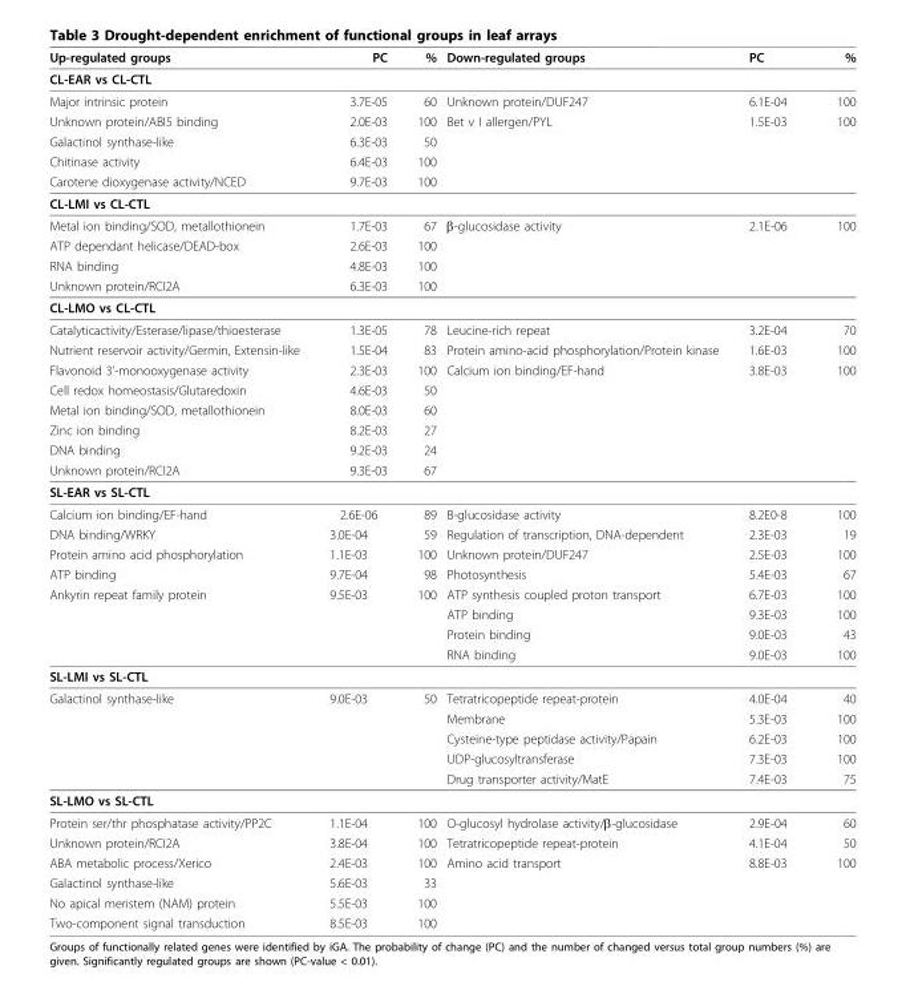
<table><thead><tr><td>Up-regulated groups</td><td>PC</td><td>%</td><td>Down-regulated groups</td><td>PC</td><td>%</td></tr></thead><tbody><tr><td colspan="6">CL-EAR vs CL-CTL</td></tr><tr><td>Major intrinsic protein</td><td>3.7E-05</td><td>60</td><td>Unknown protein/DUF247</td><td>6.1E-04</td><td>100</td></tr><tr><td>Unknown protein/ABI5 binding</td><td>2.0E-03</td><td>100</td><td>Bet v I allergen/PYL</td><td>1.5E-03</td><td>100</td></tr><tr><td>Galactinol synthase-like</td><td>6.3E-03</td><td>50</td><td></td><td></td><td></td></tr><tr><td>Chitinase activity</td><td>6.4E-03</td><td>100</td><td></td><td></td><td></td></tr><tr><td>Carotene dioxygenase activity/NCED</td><td>9.7E-03</td><td>100</td><td></td><td></td><td></td></tr><tr><td colspan="6">CL-LMI vs CL-CTL</td></tr><tr><td>Metal ion binding/SOD, metallothionein</td><td>1.7E-03</td><td>67</td><td>β-glucosidase activity</td><td>2.1E-06</td><td>100</td></tr><tr><td>ATP dependant helicase/DEAD-box</td><td>2.6E-03</td><td>100</td><td></td><td></td><td></td></tr><tr><td>RNA binding</td><td>4.8E-03</td><td>100</td><td></td><td></td><td></td></tr><tr><td>Unknown protein/RCI2A</td><td>6.3E-03</td><td>100</td><td></td><td></td><td></td></tr><tr><td colspan="6">CL-LMO vs CL-CTL</td></tr><tr><td>Catalyticactivity/Esterase/lipase/thioesterase</td><td>1.3E-05</td><td>78</td><td>Leucine-rich repeat</td><td>3.2E-04</td><td>70</td></tr><tr><td>Nutrient reservoir activity/Germin, Extensin-like</td><td>1.5E-04</td><td>83</td><td>Protein amino-acid phosphorylation/Protein kinase</td><td>1.6E-03</td><td>100</td></tr><tr><td>Flavonoid 3’-monooxygenase activity</td><td>2.3E-03</td><td>100</td><td>Calcium ion binding/EF-hand</td><td>3.8E-03</td><td>100</td></tr><tr><td>Cell redox homeostasis/Glutaredoxin</td><td>4.6E-03</td><td>50</td><td></td><td></td><td></td></tr><tr><td>Metal ion binding/SOD, metallothionein</td><td>8.0E-03</td><td>60</td><td></td><td></td><td></td></tr><tr><td>Zinc ion binding</td><td>8.2E-03</td><td>27</td><td></td><td></td><td></td></tr><tr><td>DNA binding</td><td>9.2E-03</td><td>24</td><td></td><td></td><td></td></tr><tr><td>Unknown protein/RCI2A</td><td>9.3E-03</td><td>67</td><td></td><td></td><td></td></tr><tr><td colspan="6">SL-EAR vs SL-CTL</td></tr><tr><td>Calcium ion binding/EF-hand</td><td>2.6E-06</td><td>89</td><td>B-glucosidase activity</td><td>8.2E0-8</td><td>100</td></tr><tr><td>DNA binding/WRKY</td><td>3.0E-04</td><td>59</td><td>Regulation of transcription, DNA-dependent</td><td>2.3E-03</td><td>19</td></tr><tr><td>Protein amino acid phosphorylation</td><td>1.1E-03</td><td>100</td><td>Unknown protein/DUF247</td><td>2.5E-03</td><td>100</td></tr><tr><td>ATP binding</td><td>9.7E-04</td><td>98</td><td>Photosynthesis</td><td>5.4E-03</td><td>67</td></tr><tr><td rowspan="4">Ankyrin repeat family protein</td><td>9.5E-03</td><td>100</td><td>ATP synthesis coupled proton transport</td><td>6.7E-03</td><td>100</td></tr><tr><td></td><td></td><td>ATP binding</td><td>9.3E-03</td><td>100</td></tr><tr><td></td><td></td><td>Protein binding</td><td>9.0E-03</td><td>43</td></tr><tr><td></td><td></td><td>RNA binding</td><td>9.0E-03</td><td>100</td></tr><tr><td colspan="6">SL-LMI vs SL-CTL</td></tr><tr><td rowspan="5">Galactinol synthase-like</td><td>9.0E-03</td><td>50</td><td>Tetratricopeptide repeat-protein</td><td>4.0E-04</td><td>40</td></tr><tr><td></td><td></td><td>Membrane</td><td>5.3E-03</td><td>100</td></tr><tr><td></td><td></td><td>Cysteine-type peptidase activity/Papain</td><td>6.2E-03</td><td>100</td></tr><tr><td></td><td></td><td>UDP-glucosyltransferase</td><td>7.3E-03</td><td>100</td></tr><tr><td></td><td></td><td>Drug transporter activity/MatE</td><td>7.4E-03</td><td>75</td></tr><tr><td colspan="6">SL-LMO vs SL-CTL</td></tr><tr><td>Protein ser/thr phosphatase activity/PP2C</td><td>1.1E-04</td><td>100</td><td>O-glucosyl hydrolase activity/β-glucosidase</td><td>2.9E-04</td><td>60</td></tr><tr><td>Unknown protein/RCI2A</td><td>3.8E-04</td><td>100</td><td>Tetratricopeptide repeat-protein</td><td>4.1E-04</td><td>50</td></tr><tr><td>ABA metabolic process/Xerico</td><td>2.4E-03</td><td>100</td><td>Amino acid transport</td><td>8.8E-03</td><td>100</td></tr><tr><td>Galactinol synthase-like</td><td>5.6E-03</td><td>33</td><td></td><td></td><td></td></tr><tr><td>No apical meristem (NAM) protein</td><td>5.5E-03</td><td>100</td><td></td><td></td><td></td></tr><tr><td>Two-component signal transduction</td><td>8.5E-03</td><td>100</td><td></td><td></td><td></td></tr></tbody></table>